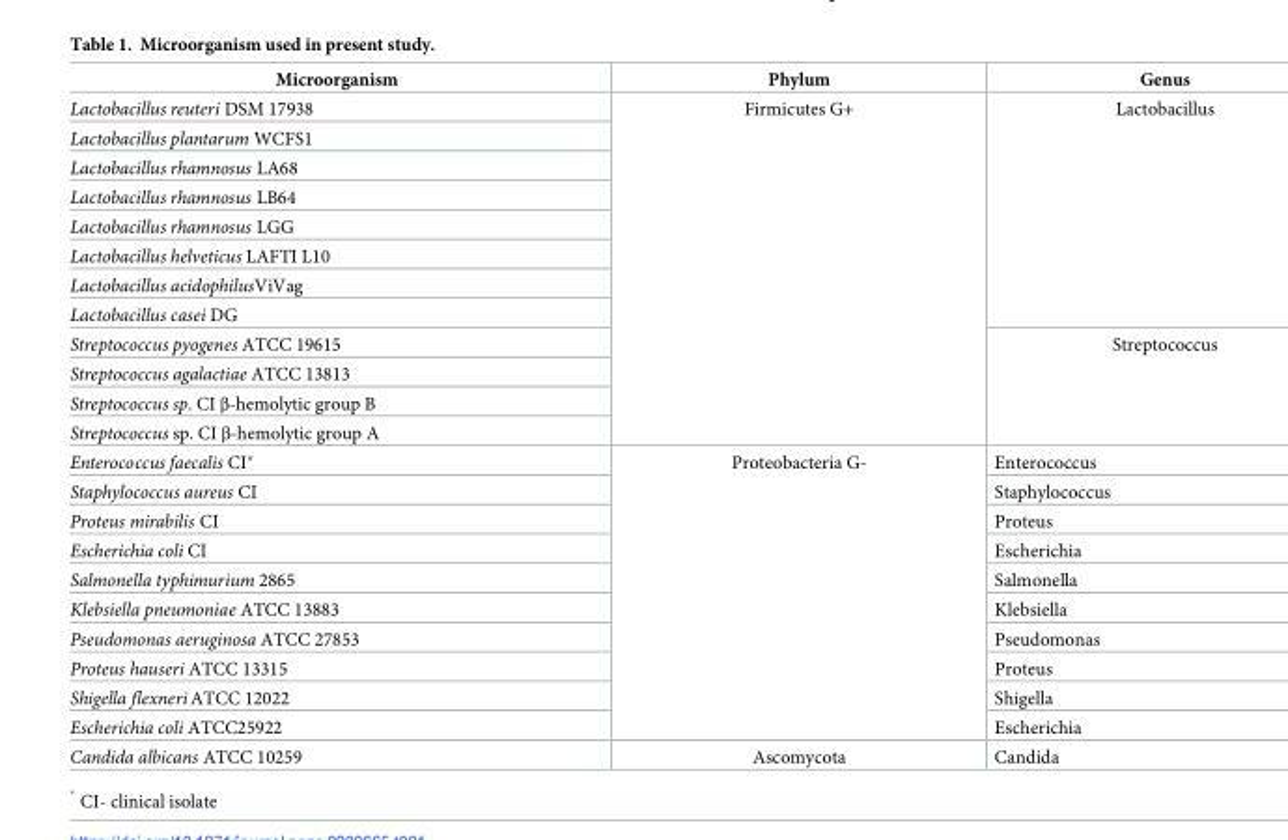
<table><thead><tr><td>Microorganism</td><td>Phylum</td><td>Genus</td></tr></thead><tbody><tr><td>Lactobacillus reuteri DSM 17938</td><td rowspan="12">Firmicutes G+</td><td rowspan="8">Lactobacillus</td></tr><tr><td>Lactobacillus plantarum WCFS1</td></tr><tr><td>Lactobacillus rhamnosus LA68</td></tr><tr><td>Lactobacillus rhamnosus LB64</td></tr><tr><td>Lactobacillus rhamnosus LGG</td></tr><tr><td>Lactobacillus helveticus LAFTI L10</td></tr><tr><td>Lactobacillus acidophilusViVag</td></tr><tr><td>Lactobacillus casei DG</td></tr><tr><td>Streptococcus pyogenes ATCC 19615</td><td rowspan="4">Streptococcus</td></tr><tr><td>Streptococcus agalactiae ATCC 13813</td></tr><tr><td>Streptococcus sp. CI β-hemolytic group B</td></tr><tr><td>Streptococcus sp. CI β-hemolytic group A</td></tr><tr><td>Enterococcus faecalis CI*</td><td rowspan="10">Proteobacteria G-</td><td>Enterococcus</td></tr><tr><td>Staphylococcus aureus CI</td><td>Staphylococcus</td></tr><tr><td>Proteus mirabilis CI</td><td>Proteus</td></tr><tr><td>Escherichia coli CI</td><td>Escherichia</td></tr><tr><td>Salmonella typhimurium 2865</td><td>Salmonella</td></tr><tr><td>Klebsiella pneumoniae ATCC 13883</td><td>Klebsiella</td></tr><tr><td>Pseudomonas aeruginosa ATCC 27853</td><td>Pseudomonas</td></tr><tr><td>Proteus hauseri ATCC 13315</td><td>Proteus</td></tr><tr><td>Shigella flexneri ATCC 12022</td><td>Shigella</td></tr><tr><td>Escherichia coli ATCC25922</td><td>Escherichia</td></tr><tr><td>Candida albicans ATCC 10259</td><td>Ascomycota</td><td>Candida</td></tr></tbody></table>